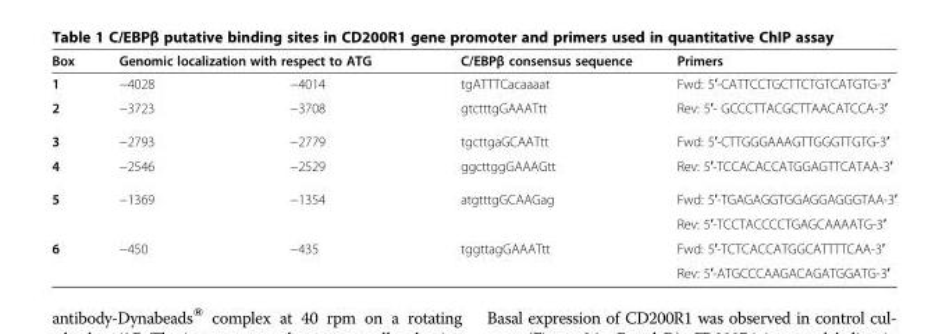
<table><thead><tr><td rowspan="2">Box 1</td><td colspan="2">Genomic localization with respect to ATG</td><td rowspan="2">C/EBPβ consensus sequence tgATTTCacaaaat</td><td rowspan="2">Primers Fwd: 5′-CATTCCTGCTTCTGTCATGTG-3′</td></tr><tr><td>−4028</td><td>−4014</td></tr></thead><tbody><tr><td>2</td><td>−3723</td><td>−3708</td><td>gtctttgGAAATtt</td><td>Rev: 5′- GCCCTTACGCTTAACATCCA-3′</td></tr><tr><td>3</td><td>−2793</td><td>−2779</td><td>tgcttgaGCAATtt</td><td>Fwd: 5′-CTTGGGAAAGTTGGGTTGTG-3′</td></tr><tr><td>4</td><td>−2546</td><td>−2529</td><td>ggcttggGAAAGtt</td><td>Rev: 5′-TCCACACCATGGAGTTCATAA-3′</td></tr><tr><td rowspan="2">5</td><td>−1369</td><td>−1354</td><td>atgtttgGCAAGag</td><td>Fwd: 5′-TGAGAGGTGGAGGAGGGTAA-3′</td></tr><tr><td></td><td></td><td></td><td>Rev: 5′-TCCTACCCCTGAGCAAAATG-3′</td></tr><tr><td rowspan="2">6</td><td>−450</td><td>−435</td><td>tggttagGAAATtt</td><td>Fwd: 5′-TCTCACCATGGCATTTTCAA-3′</td></tr><tr><td></td><td></td><td></td><td>Rev: 5′-ATGCCCAAGACAGATGGATG-3′</td></tr></tbody></table>